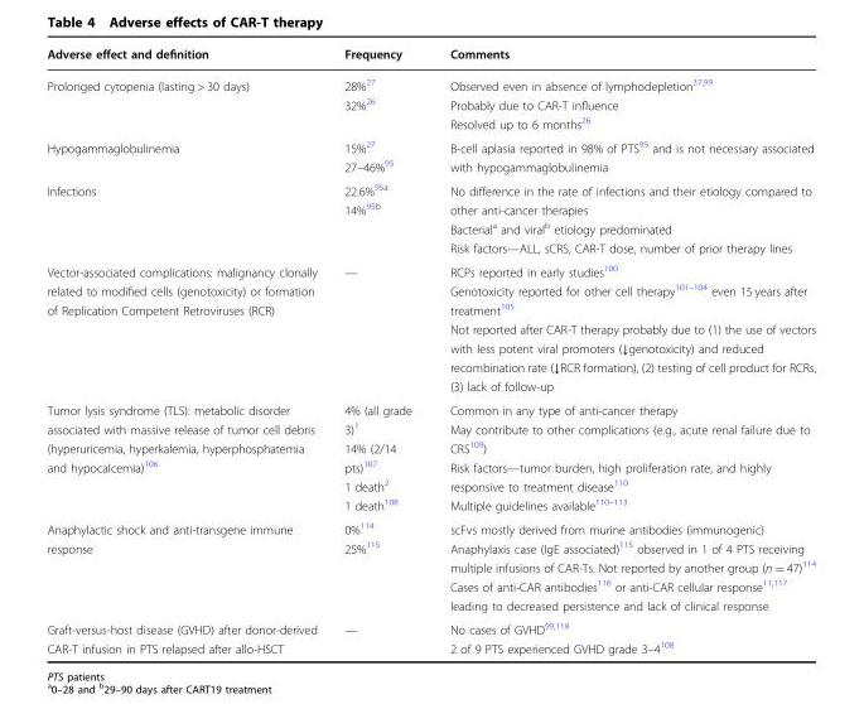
<table><thead><tr><td>Adverse effect and definition</td><td>Frequency</td><td>Comments</td></tr></thead><tbody><tr><td>Prolonged cytopenia (lasting &gt; 30 days)</td><td>28%<sup>27</sup> 32%<sup>26</sup></td><td>Observed even in absence of lymphodepletion<sup>37,99</sup> Probably due to CAR-T influence Resolved up to 6 months<sup>26</sup></td></tr><tr><td>Hypogammaglobulinemia</td><td>15%<sup>27</sup> 27–46%<sup>95</sup></td><td>B-cell aplasia reported in 98% of PTS<sup>95</sup> and is not necessary associated with hypogammaglobulinemia</td></tr><tr><td>Infections</td><td>22.6%<sup>95a</sup> 14%<sup>95b</sup></td><td>No difference in the rate of infections and their etiology compared to other anti-cancer therapies Bacterial<sup>a</sup> and viral<sup>b</sup> etiology predominated Risk factors—ALL, sCRS, CAR-T dose, number of prior therapy lines</td></tr><tr><td>Vector-associated complications: malignancy clonally related to modified cells (genotoxicity) or formation of Replication Competent Retroviruses (RCR)</td><td>—</td><td>RCPs reported in early studies<sup>100</sup> Genotoxicity reported for other cell therapy<sup>101–104</sup> even 15 years after treatment<sup>105</sup> Not reported after CAR-T therapy probably due to (1) the use of vectors with less potent viral promoters (↓genotoxicity) and reduced recombination rate (↓RCR formation), (2) testing of cell product for RCRs, (3) lack of follow-up</td></tr><tr><td>Tumor lysis syndrome (TLS): metabolic disorder associated with massive release of tumor cell debris (hyperuricemia, hyperkalemia, hyperphosphatemia and hypocalcemia)<sup>106</sup></td><td>4% (all grade 3)<sup>1</sup> 14% (2/14 pts)<sup>107</sup> 1 death<sup>2</sup> 1 death<sup>108</sup></td><td>Common in any type of anti-cancer therapy May contribute to other complications (e.g., acute renal failure due to CRS<sup>109</sup>) Risk factors—tumor burden, high proliferation rate, and highly responsive to treatment disease<sup>110</sup> Multiple guidelines available<sup>110–113</sup></td></tr><tr><td>Anaphylactic shock and anti-transgene immune response</td><td>0%<sup>114</sup> 25%<sup>115</sup></td><td>scFvs mostly derived from murine antibodies (immunogenic) Anaphylaxis case (IgE associated)<sup>115</sup> observed in 1 of 4 PTS receiving multiple infusions of CAR-Ts. Not reported by another group (n = 47)<sup>114</sup> Cases of anti-CAR antibodies<sup>116</sup> or anti-CAR cellular response<sup>11,117</sup> leading to decreased persistence and lack of clinical response</td></tr><tr><td>Graft-versus-host disease (GVHD) after donor-derived CAR-T infusion in PTS relapsed after allo-HSCT</td><td>—</td><td>No cases of GVHD<sup>99,118</sup> 2 of 9 PTS experienced GVHD grade 3–4<sup>108</sup></td></tr></tbody></table>